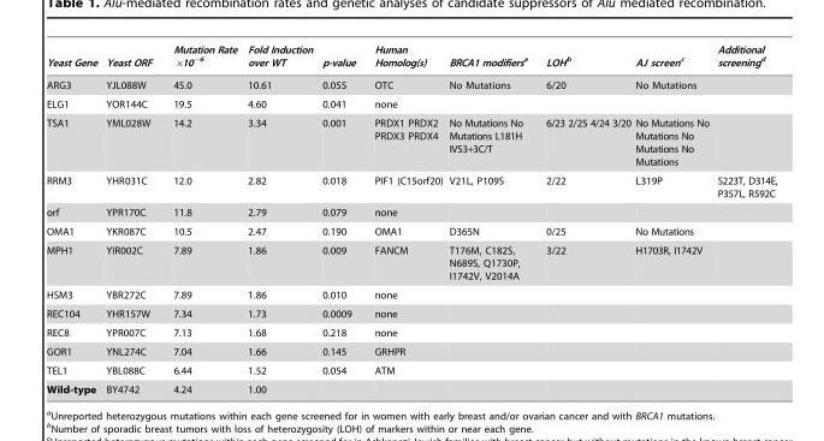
<table><thead><tr><td>Yeast Gene</td><td>Yeast ORF</td><td>Mutation Rate ×10<sup>−6</sup></td><td>Fold Induction over WT</td><td>p-value</td><td>Human Homolog(s)</td><td>BRCA1 modifiersa</td><td>LOHb</td><td>AJ screenc</td><td>Additional screeningd</td></tr></thead><tbody><tr><td>ARG3</td><td>YJL088W</td><td>45.0</td><td>10.61</td><td>0.055</td><td>OTC</td><td>No Mutations</td><td>6/20</td><td>No Mutations</td><td></td></tr><tr><td>ELG1</td><td>YOR144C</td><td>19.5</td><td>4.60</td><td>0.041</td><td>none</td><td></td><td></td><td></td><td></td></tr><tr><td>TSA1</td><td>YML028W</td><td>14.2</td><td>3.34</td><td>0.001</td><td>PRDX1 PRDX2 PRDX3 PRDX4</td><td>No Mutations No Mutations L181H IVS3+3C/T</td><td>6/23 2/25 4/24 3/20</td><td>No Mutations No Mutations No Mutations No Mutations</td><td></td></tr><tr><td>RRM3</td><td>YHR031C</td><td>12.0</td><td>2.82</td><td>0.018</td><td>PIF1 (C15orf20)</td><td>V21L, P109S</td><td>2/22</td><td>L319P</td><td>S223T, D314E, P357L, R592C</td></tr><tr><td>orf</td><td>YPR170C</td><td>11.8</td><td>2.79</td><td>0.079</td><td>none</td><td></td><td></td><td></td><td></td></tr><tr><td>OMA1</td><td>YKR087C</td><td>10.5</td><td>2.47</td><td>0.190</td><td>OMA1</td><td>D365N</td><td>0/25</td><td>No Mutations</td><td></td></tr><tr><td>MPH1</td><td>YIR002C</td><td>7.89</td><td>1.86</td><td>0.009</td><td>FANCM</td><td>T176M, C182S, N689S, Q1730P, I1742V, V2014A</td><td>3/22</td><td>H1703R, I1742V</td><td></td></tr><tr><td>HSM3</td><td>YBR272C</td><td>7.89</td><td>1.86</td><td>0.010</td><td>none</td><td></td><td></td><td></td><td></td></tr><tr><td>REC104</td><td>YHR157W</td><td>7.34</td><td>1.73</td><td>0.0009</td><td>none</td><td></td><td></td><td></td><td></td></tr><tr><td>REC8</td><td>YPR007C</td><td>7.13</td><td>1.68</td><td>0.218</td><td>none</td><td></td><td></td><td></td><td></td></tr><tr><td>GOR1</td><td>YNL274C</td><td>7.04</td><td>1.66</td><td>0.145</td><td>GRHPR</td><td></td><td></td><td></td><td></td></tr><tr><td>TEL1</td><td>YBL088C</td><td>6.44</td><td>1.52</td><td>0.054</td><td>ATM</td><td></td><td></td><td></td><td></td></tr><tr><td>Wild-type</td><td>BY4742</td><td>4.24</td><td>1.00</td><td></td><td></td><td></td><td></td><td></td><td></td></tr></tbody></table>